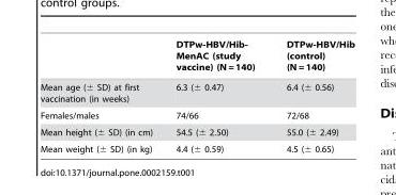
<table><thead><tr><td></td><td>DTPw-HBV/Hib- MenAC (study vaccine) (N = 140)</td><td>DTPw-HBV/Hib (control) (N = 140)</td></tr></thead><tbody><tr><td>Mean age (± SD) at first vaccination (in weeks)</td><td>6.3 (± 0.47)</td><td>6.4 (± 0.56)</td></tr><tr><td>Females/males</td><td>74/66</td><td>72/68</td></tr><tr><td>Mean height (± SD) (in cm)</td><td>54.5 (± 2.50)</td><td>55.0 (± 2.49)</td></tr><tr><td>Mean weight (± SD) (in kg)</td><td>4.4 (± 0.59)</td><td>4.5 (± 0.65)</td></tr></tbody></table>